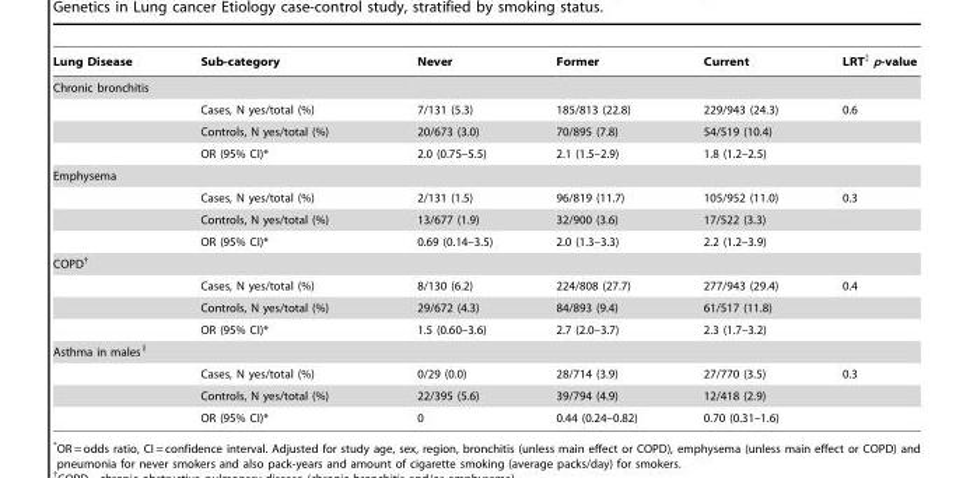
<table><thead><tr><td>Lung Disease</td><td>Sub-category</td><td>Never</td><td>Former</td><td>Current</td><td>LRT‡ p-value</td></tr></thead><tbody><tr><td colspan="6">Chronic bronchitis</td></tr><tr><td></td><td>Cases, N yes/total (%)</td><td>7/131 (5.3)</td><td>185/813 (22.8)</td><td>229/943 (24.3)</td><td>0.6</td></tr><tr><td></td><td>Controls, N yes/total (%)</td><td>20/673 (3.0)</td><td>70/895 (7.8)</td><td>54/519 (10.4)</td><td></td></tr><tr><td></td><td>OR (95% CI)*</td><td>2.0 (0.75–5.5)</td><td>2.1 (1.5–2.9)</td><td>1.8 (1.2–2.5)</td><td></td></tr><tr><td colspan="6">Emphysema</td></tr><tr><td></td><td>Cases, N yes/total (%)</td><td>2/131 (1.5)</td><td>96/819 (11.7)</td><td>105/952 (11.0)</td><td>0.3</td></tr><tr><td></td><td>Controls, N yes/total (%)</td><td>13/677 (1.9)</td><td>32/900 (3.6)</td><td>17/522 (3.3)</td><td></td></tr><tr><td></td><td>OR (95% CI)*</td><td>0.69 (0.14–3.5)</td><td>2.0 (1.3–3.3)</td><td>2.2 (1.2–3.9)</td><td></td></tr><tr><td colspan="6">COPD†</td></tr><tr><td></td><td>Cases, N yes/total (%)</td><td>8/130 (6.2)</td><td>224/808 (27.7)</td><td>277/943 (29.4)</td><td>0.4</td></tr><tr><td></td><td>Controls, N yes/total (%)</td><td>29/672 (4.3)</td><td>84/893 (9.4)</td><td>61/517 (11.8)</td><td></td></tr><tr><td></td><td>OR (95% CI)*</td><td>1.5 (0.60–3.6)</td><td>2.7 (2.0–3.7)</td><td>2.3 (1.7–3.2)</td><td></td></tr><tr><td colspan="6">Asthma in males∥</td></tr><tr><td></td><td>Cases, N yes/total (%)</td><td>0/29 (0.0)</td><td>28/714 (3.9)</td><td>27/770 (3.5)</td><td>0.3</td></tr><tr><td></td><td>Controls, N yes/total (%)</td><td>22/395 (5.6)</td><td>39/794 (4.9)</td><td>12/418 (2.9)</td><td></td></tr><tr><td></td><td>OR (95% CI)*</td><td>0</td><td>0.44 (0.24–0.82)</td><td>0.70 (0.31–1.6)</td><td></td></tr></tbody></table>